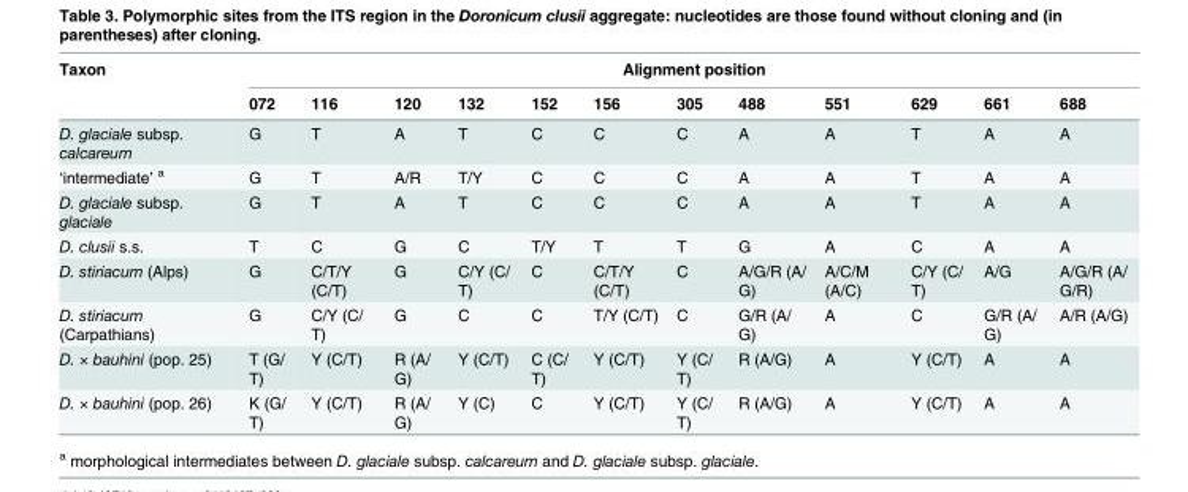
<table><thead><tr><td rowspan="2">Taxon</td><td colspan="12">Alignment position</td></tr><tr><td>072</td><td>116</td><td>120</td><td>132</td><td>152</td><td>156</td><td>305</td><td>488</td><td>551</td><td>629</td><td>661</td><td>688</td></tr></thead><tbody><tr><td>D. glaciale subsp. calcareum</td><td>G</td><td>T</td><td>A</td><td>T</td><td>C</td><td>C</td><td>C</td><td>A</td><td>A</td><td>T</td><td>A</td><td>A</td></tr><tr><td>‘intermediate’ <sup>a</sup></td><td>G</td><td>T</td><td>A/R</td><td>T/Y</td><td>C</td><td>C</td><td>C</td><td>A</td><td>A</td><td>T</td><td>A</td><td>A</td></tr><tr><td>D. glaciale subsp. glaciale</td><td>G</td><td>T</td><td>A</td><td>T</td><td>C</td><td>C</td><td>C</td><td>A</td><td>A</td><td>T</td><td>A</td><td>A</td></tr><tr><td>D. clusii s.s.</td><td>T</td><td>C</td><td>G</td><td>C</td><td>T/Y</td><td>T</td><td>T</td><td>G</td><td>A</td><td>C</td><td>A</td><td>A</td></tr><tr><td>D. stiriacum (Alps)</td><td>G</td><td>C/T/Y (C/T)</td><td>G</td><td>C/Y (C/ T)</td><td>C</td><td>C/T/Y (C/T)</td><td>C</td><td>A/G/R (A/ G)</td><td>A/C/M (A/C)</td><td>C/Y (C/ T)</td><td>A/G</td><td>A/G/R (A/ G/R)</td></tr><tr><td>D. stiriacum (Carpathians)</td><td>G</td><td>C/Y (C/ T)</td><td>G</td><td>C</td><td>C</td><td>T/Y (C/T)</td><td>C</td><td>G/R (A/ G)</td><td>A</td><td>C</td><td>G/R (A/ G)</td><td>A/R (A/G)</td></tr><tr><td>D. × bauhini (pop. 25)</td><td>T (G/ T)</td><td>Y (C/T)</td><td>R (A/ G)</td><td>Y (C/T)</td><td>C (C/ T)</td><td>Y (C/T)</td><td>Y (C/ T)</td><td>R (A/G)</td><td>A</td><td>Y (C/T)</td><td>A</td><td>A</td></tr><tr><td>D. × bauhini (pop. 26)</td><td>K (G/ T)</td><td>Y (C/T)</td><td>R (A/ G)</td><td>Y (C)</td><td>C</td><td>Y (C/T)</td><td>Y (C/ T)</td><td>R (A/G)</td><td>A</td><td>Y (C/T)</td><td>A</td><td>A</td></tr></tbody></table>